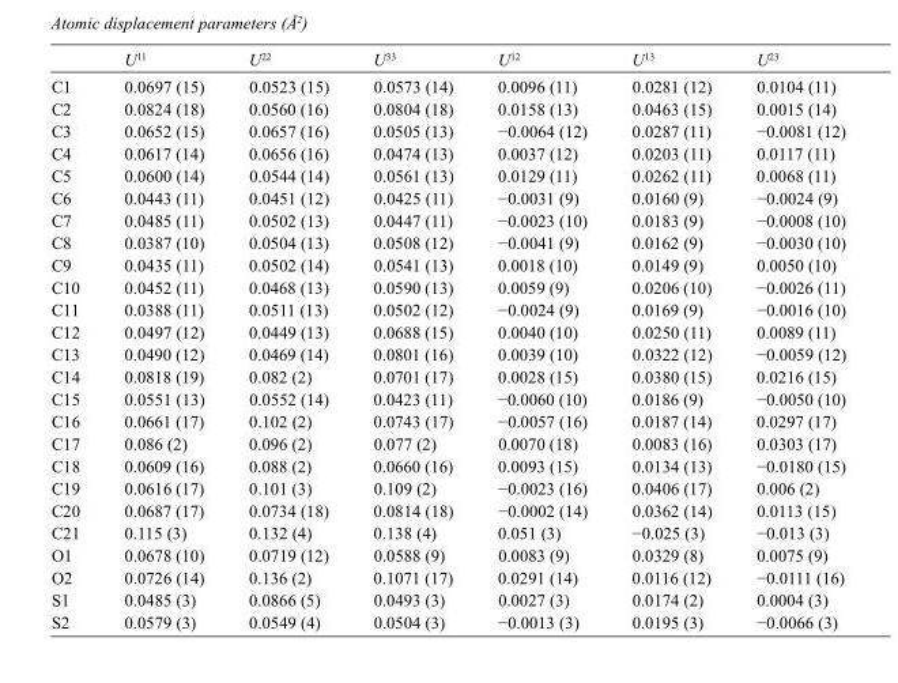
<table><thead><tr><td></td><td>U<sup>11</sup></td><td>U<sup>22</sup></td><td>U<sup>33</sup></td><td>U<sup>12</sup></td><td>U<sup>13</sup></td><td>U<sup>23</sup></td></tr></thead><tbody><tr><td>C1</td><td>0.0697 (15)</td><td>0.0523 (15)</td><td>0.0573 (14)</td><td>0.0096 (11)</td><td>0.0281 (12)</td><td>0.0104 (11)</td></tr><tr><td>C2</td><td>0.0824 (18)</td><td>0.0560 (16)</td><td>0.0804 (18)</td><td>0.0158 (13)</td><td>0.0463 (15)</td><td>0.0015 (14)</td></tr><tr><td>C3</td><td>0.0652 (15)</td><td>0.0657 (16)</td><td>0.0505 (13)</td><td>−0.0064 (12)</td><td>0.0287 (11)</td><td>−0.0081 (12)</td></tr><tr><td>C4</td><td>0.0617 (14)</td><td>0.0656 (16)</td><td>0.0474 (13)</td><td>0.0037 (12)</td><td>0.0203 (11)</td><td>0.0117 (11)</td></tr><tr><td>C5</td><td>0.0600 (14)</td><td>0.0544 (14)</td><td>0.0561 (13)</td><td>0.0129 (11)</td><td>0.0262 (11)</td><td>0.0068 (11)</td></tr><tr><td>C6</td><td>0.0443 (11)</td><td>0.0451 (12)</td><td>0.0425 (11)</td><td>−0.0031 (9)</td><td>0.0160 (9)</td><td>−0.0024 (9)</td></tr><tr><td>C7</td><td>0.0485 (11)</td><td>0.0502 (13)</td><td>0.0447 (11)</td><td>−0.0023 (10)</td><td>0.0183 (9)</td><td>−0.0008 (10)</td></tr><tr><td>C8</td><td>0.0387 (10)</td><td>0.0504 (13)</td><td>0.0508 (12)</td><td>−0.0041 (9)</td><td>0.0162 (9)</td><td>−0.0030 (10)</td></tr><tr><td>C9</td><td>0.0435 (11)</td><td>0.0502 (14)</td><td>0.0541 (13)</td><td>0.0018 (10)</td><td>0.0149 (9)</td><td>0.0050 (10)</td></tr><tr><td>C10</td><td>0.0452 (11)</td><td>0.0468 (13)</td><td>0.0590 (13)</td><td>0.0059 (9)</td><td>0.0206 (10)</td><td>−0.0026 (11)</td></tr><tr><td>C11</td><td>0.0388 (11)</td><td>0.0511 (13)</td><td>0.0502 (12)</td><td>−0.0024 (9)</td><td>0.0169 (9)</td><td>−0.0016 (10)</td></tr><tr><td>C12</td><td>0.0497 (12)</td><td>0.0449 (13)</td><td>0.0688 (15)</td><td>0.0040 (10)</td><td>0.0250 (11)</td><td>0.0089 (11)</td></tr><tr><td>C13</td><td>0.0490 (12)</td><td>0.0469 (14)</td><td>0.0801 (16)</td><td>0.0039 (10)</td><td>0.0322 (12)</td><td>−0.0059 (12)</td></tr><tr><td>C14</td><td>0.0818 (19)</td><td>0.082 (2)</td><td>0.0701 (17)</td><td>0.0028 (15)</td><td>0.0380 (15)</td><td>0.0216 (15)</td></tr><tr><td>C15</td><td>0.0551 (13)</td><td>0.0552 (14)</td><td>0.0423 (11)</td><td>−0.0060 (10)</td><td>0.0186 (9)</td><td>−0.0050 (10)</td></tr><tr><td>C16</td><td>0.0661 (17)</td><td>0.102 (2)</td><td>0.0743 (17)</td><td>−0.0057 (16)</td><td>0.0187 (14)</td><td>0.0297 (17)</td></tr><tr><td>C17</td><td>0.086 (2)</td><td>0.096 (2)</td><td>0.077 (2)</td><td>0.0070 (18)</td><td>0.0083 (16)</td><td>0.0303 (17)</td></tr><tr><td>C18</td><td>0.0609 (16)</td><td>0.088 (2)</td><td>0.0660 (16)</td><td>0.0093 (15)</td><td>0.0134 (13)</td><td>−0.0180 (15)</td></tr><tr><td>C19</td><td>0.0616 (17)</td><td>0.101 (3)</td><td>0.109 (2)</td><td>−0.0023 (16)</td><td>0.0406 (17)</td><td>0.006 (2)</td></tr><tr><td>C20</td><td>0.0687 (17)</td><td>0.0734 (18)</td><td>0.0814 (18)</td><td>−0.0002 (14)</td><td>0.0362 (14)</td><td>0.0113 (15)</td></tr><tr><td>C21</td><td>0.115 (3)</td><td>0.132 (4)</td><td>0.138 (4)</td><td>0.051 (3)</td><td>−0.025 (3)</td><td>−0.013 (3)</td></tr><tr><td>O1</td><td>0.0678 (10)</td><td>0.0719 (12)</td><td>0.0588 (9)</td><td>0.0083 (9)</td><td>0.0329 (8)</td><td>0.0075 (9)</td></tr><tr><td>O2</td><td>0.0726 (14)</td><td>0.136 (2)</td><td>0.1071 (17)</td><td>0.0291 (14)</td><td>0.0116 (12)</td><td>−0.0111 (16)</td></tr><tr><td>S1</td><td>0.0485 (3)</td><td>0.0866 (5)</td><td>0.0493 (3)</td><td>0.0027 (3)</td><td>0.0174 (2)</td><td>0.0004 (3)</td></tr><tr><td>S2</td><td>0.0579 (3)</td><td>0.0549 (4)</td><td>0.0504 (3)</td><td>−0.0013 (3)</td><td>0.0195 (3)</td><td>−0.0066 (3)</td></tr></tbody></table>